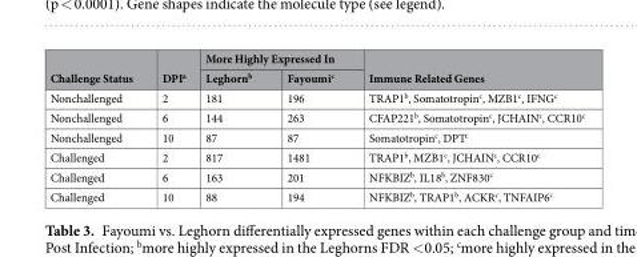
<table><thead><tr><td rowspan="2">Challenge Status</td><td rowspan="2">DPI<sup>a</sup></td><td colspan="2">More Highly Expressed In</td><td rowspan="2">Immune Related Genes</td></tr><tr><td>Leghorn<sup>b</sup></td><td>Fayoumi<sup>c</sup></td></tr></thead><tbody><tr><td>Nonchallenged</td><td>2</td><td>181</td><td>196</td><td>TRAP1<sup>b</sup>, Somatotropin<sup>c</sup>, MZB1<sup>c</sup>, IFNG<sup>c</sup></td></tr><tr><td>Nonchallenged</td><td>6</td><td>144</td><td>263</td><td>CFAP221<sup>b</sup>, Somatotropin<sup>c</sup>, JCHAIN<sup>c</sup>, CCR10<sup>c</sup></td></tr><tr><td>Nonchallenged</td><td>10</td><td>87</td><td>87</td><td>Somatotropin<sup>c</sup>, DPT<sup>c</sup></td></tr><tr><td>Challenged</td><td>2</td><td>817</td><td>1481</td><td>TRAP1<sup>b</sup>, MZB1<sup>c</sup>, JCHAIN<sup>c</sup>, CCR10<sup>c</sup></td></tr><tr><td>Challenged</td><td>6</td><td>163</td><td>201</td><td>NFKBIZ<sup>b</sup>, IL18<sup>b</sup>, ZNF830<sup>c</sup></td></tr><tr><td>Challenged</td><td>10</td><td>88</td><td>194</td><td>NFKBIZ<sup>b</sup>, TRAP1<sup>b</sup>, ACKR<sup>c</sup>, TNFAIP6<sup>c</sup></td></tr></tbody></table>